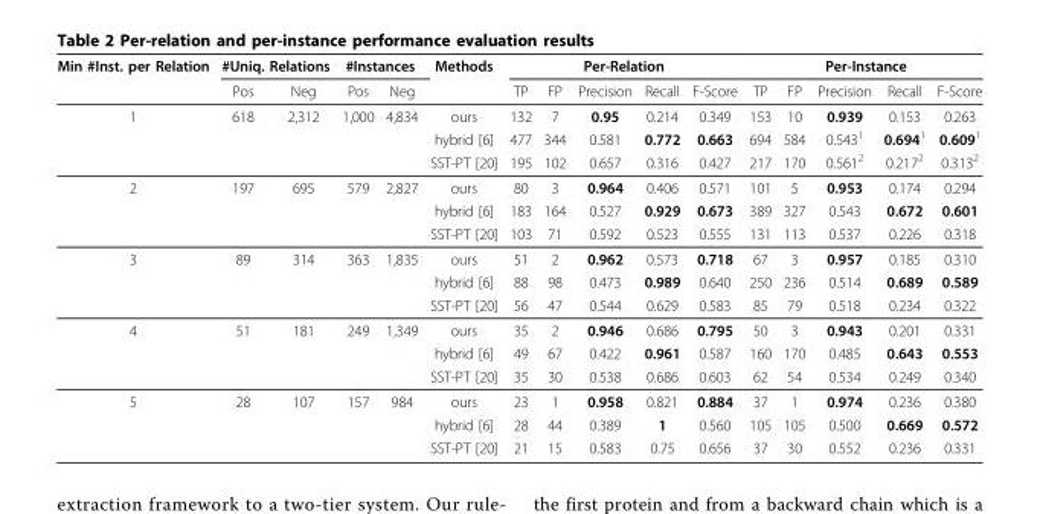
<table><thead><tr><td rowspan="2">Min #Inst. per Relation</td><td colspan="2">#Uniq. Relations</td><td colspan="2">#Instances</td><td rowspan="2">Methods</td><td colspan="5">Per-Relation</td><td colspan="5">Per-Instance</td></tr><tr><td>Pos</td><td>Neg</td><td>Pos</td><td>Neg</td><td>TP</td><td>FP</td><td>Precision</td><td>Recall</td><td>F-Score</td><td>TP</td><td>FP</td><td>Precision</td><td>Recall</td><td>F-Score</td></tr></thead><tbody><tr><td rowspan="3">1</td><td>618</td><td>2,312</td><td>1,000</td><td>4,834</td><td>ours</td><td>132</td><td>7</td><td>0.95</td><td>0.214</td><td>0.349</td><td>153</td><td>10</td><td>0.939</td><td>0.153</td><td>0.263</td></tr><tr><td></td><td></td><td></td><td></td><td>hybrid [6]</td><td>477</td><td>344</td><td>0.581</td><td>0.772</td><td>0.663</td><td>694</td><td>584</td><td>0.543<sup>1</sup></td><td>0.694<sup>1</sup></td><td>0.609<sup>1</sup></td></tr><tr><td></td><td></td><td></td><td></td><td>SST-PT [20]</td><td>195</td><td>102</td><td>0.657</td><td>0.316</td><td>0.427</td><td>217</td><td>170</td><td>0.561<sup>2</sup></td><td>0.217<sup>2</sup></td><td>0.313<sup>2</sup></td></tr><tr><td rowspan="3">2</td><td>197</td><td>695</td><td>579</td><td>2,827</td><td>ours</td><td>80</td><td>3</td><td>0.964</td><td>0.406</td><td>0.571</td><td>101</td><td>5</td><td>0.953</td><td>0.174</td><td>0.294</td></tr><tr><td></td><td></td><td></td><td></td><td>hybrid [6]</td><td>183</td><td>164</td><td>0.527</td><td>0.929</td><td>0.673</td><td>389</td><td>327</td><td>0.543</td><td>0.672</td><td>0.601</td></tr><tr><td></td><td></td><td></td><td></td><td>SST-PT [20]</td><td>103</td><td>71</td><td>0.592</td><td>0.523</td><td>0.555</td><td>131</td><td>113</td><td>0.537</td><td>0.226</td><td>0.318</td></tr><tr><td rowspan="3">3</td><td>89</td><td>314</td><td>363</td><td>1,835</td><td>ours</td><td>51</td><td>2</td><td>0.962</td><td>0.573</td><td>0.718</td><td>67</td><td>3</td><td>0.957</td><td>0.185</td><td>0.310</td></tr><tr><td></td><td></td><td></td><td></td><td>hybrid [6]</td><td>88</td><td>98</td><td>0.473</td><td>0.989</td><td>0.640</td><td>250</td><td>236</td><td>0.514</td><td>0.689</td><td>0.589</td></tr><tr><td></td><td></td><td></td><td></td><td>SST-PT [20]</td><td>56</td><td>47</td><td>0.544</td><td>0.629</td><td>0.583</td><td>85</td><td>79</td><td>0.518</td><td>0.234</td><td>0.322</td></tr><tr><td rowspan="3">4</td><td>51</td><td>181</td><td>249</td><td>1,349</td><td>ours</td><td>35</td><td>2</td><td>0.946</td><td>0.686</td><td>0.795</td><td>50</td><td>3</td><td>0.943</td><td>0.201</td><td>0.331</td></tr><tr><td></td><td></td><td></td><td></td><td>hybrid [6]</td><td>49</td><td>67</td><td>0.422</td><td>0.961</td><td>0.587</td><td>160</td><td>170</td><td>0.485</td><td>0.643</td><td>0.553</td></tr><tr><td></td><td></td><td></td><td></td><td>SST-PT [20]</td><td>35</td><td>30</td><td>0.538</td><td>0.686</td><td>0.603</td><td>62</td><td>54</td><td>0.534</td><td>0.249</td><td>0.340</td></tr><tr><td rowspan="3">5</td><td>28</td><td>107</td><td>157</td><td>984</td><td>ours</td><td>23</td><td>1</td><td>0.958</td><td>0.821</td><td>0.884</td><td>37</td><td>1</td><td>0.974</td><td>0.236</td><td>0.380</td></tr><tr><td></td><td></td><td></td><td></td><td>hybrid [6]</td><td>28</td><td>44</td><td>0.389</td><td>1</td><td>0.560</td><td>105</td><td>105</td><td>0.500</td><td>0.669</td><td>0.572</td></tr><tr><td></td><td></td><td></td><td></td><td>SST-PT [20]</td><td>21</td><td>15</td><td>0.583</td><td>0.75</td><td>0.656</td><td>37</td><td>30</td><td>0.552</td><td>0.236</td><td>0.331</td></tr></tbody></table>